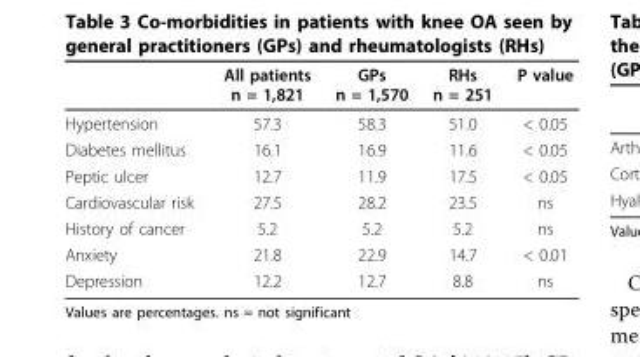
<table><thead><tr><td></td><td>All patients n = 1,821</td><td>GPs n = 1,570</td><td>RHs n = 251</td><td>P value</td></tr></thead><tbody><tr><td>Hypertension</td><td>57.3</td><td>58.3</td><td>51.0</td><td>&lt; 0.05</td></tr><tr><td>Diabetes mellitus</td><td>16.1</td><td>16.9</td><td>11.6</td><td>&lt; 0.05</td></tr><tr><td>Peptic ulcer</td><td>12.7</td><td>11.9</td><td>17.5</td><td>&lt; 0.05</td></tr><tr><td>Cardiovascular risk</td><td>27.5</td><td>28.2</td><td>23.5</td><td>ns</td></tr><tr><td>History of cancer</td><td>5.2</td><td>5.2</td><td>5.2</td><td>ns</td></tr><tr><td>Anxiety</td><td>21.8</td><td>22.9</td><td>14.7</td><td>&lt; 0.01</td></tr><tr><td>Depression</td><td>12.2</td><td>12.7</td><td>8.8</td><td>ns</td></tr></tbody></table>